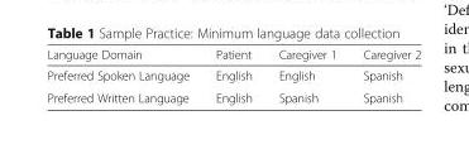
<table><thead><tr><td>Language Domain</td><td>Patient</td><td>Caregiver 1</td><td>Caregiver 2</td></tr></thead><tbody><tr><td>Preferred Spoken Language</td><td>English</td><td>English</td><td>Spanish</td></tr><tr><td>Preferred Written Language</td><td>English</td><td>Spanish</td><td>Spanish</td></tr></tbody></table>